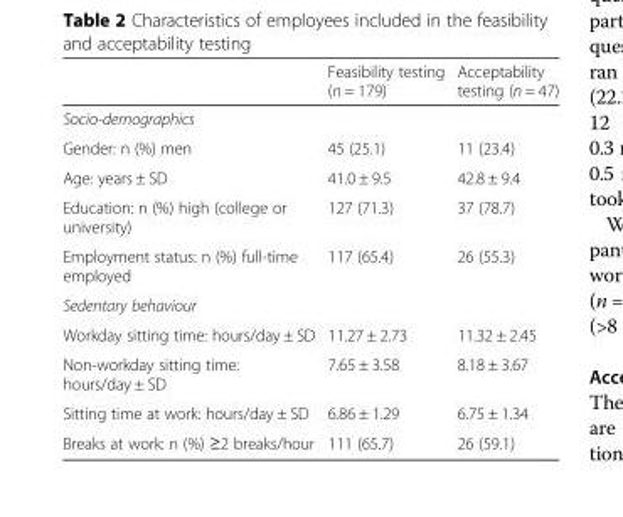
<table><thead><tr><td></td><td>Feasibility testing (n = 179)</td><td>Acceptability testing (n = 47)</td></tr></thead><tbody><tr><td colspan="3">Socio-demographics</td></tr><tr><td>Gender: n (%) men</td><td>45 (25.1)</td><td>11 (23.4)</td></tr><tr><td>Age: years ± SD</td><td>41.0 ± 9.5</td><td>42.8 ± 9.4</td></tr><tr><td>Education: n (%) high (college or university)</td><td>127 (71.3)</td><td>37 (78.7)</td></tr><tr><td>Employment status: n (%) full-time employed</td><td>117 (65.4)</td><td>26 (55.3)</td></tr><tr><td colspan="3">Sedentary behaviour</td></tr><tr><td>Workday sitting time: hours/day ± SD</td><td>11.27 ± 2.73</td><td>11.32 ± 2.45</td></tr><tr><td>Non-workday sitting time: hours/day ± SD</td><td>7.65 ± 3.58</td><td>8.18 ± 3.67</td></tr><tr><td>Sitting time at work: hours/day ± SD</td><td>6.86 ± 1.29</td><td>6.75 ± 1.34</td></tr><tr><td>Breaks at work: n (%) ≥2 breaks/hour</td><td>111 (65.7)</td><td>26 (59.1)</td></tr></tbody></table>